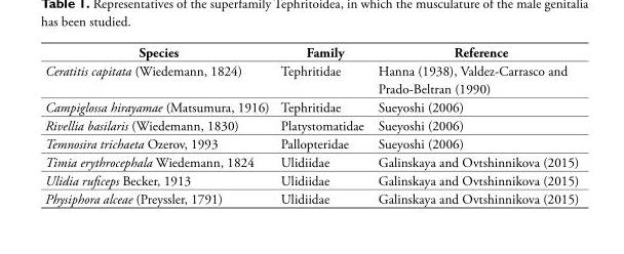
<table><thead><tr><td>Species</td><td>Family</td><td>Reference</td></tr></thead><tbody><tr><td>Ceratitis capitata (Wiedemann, 1824)</td><td>Tephritidae</td><td>Hanna (1938), Valdez-Carrasco and Prado-Beltran (1990)</td></tr><tr><td>Campiglossa hirayamae (Matsumura, 1916)</td><td>Tephritidae</td><td>Sueyoshi (2006)</td></tr><tr><td>Rivellia basilaris (Wiedemann, 1830)</td><td>Platystomatidae</td><td>Sueyoshi (2006)</td></tr><tr><td>Temnosira trichaeta Ozerov, 1993</td><td>Pallopteridae</td><td>Sueyoshi (2006)</td></tr><tr><td>Timia erythrocephala Wiedemann, 1824</td><td>Ulidiidae</td><td>Galinskaya and Ovtshinnikova (2015)</td></tr><tr><td>Ulidia ruficeps Becker, 1913</td><td>Ulidiidae</td><td>Galinskaya and Ovtshinnikova (2015)</td></tr><tr><td>Physiphora alceae (Preyssler, 1791)</td><td>Ulidiidae</td><td>Galinskaya and Ovtshinnikova (2015)</td></tr></tbody></table>